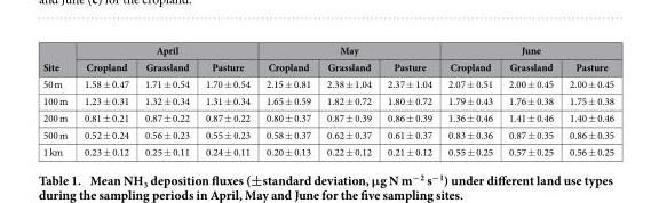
<table><thead><tr><td rowspan="2">Site</td><td colspan="3">April</td><td colspan="3">May</td><td colspan="3">June</td></tr><tr><td>Cropland</td><td>Grassland</td><td>Pasture</td><td>Cropland</td><td>Grassland</td><td>Pasture</td><td>Cropland</td><td>Grassland</td><td>Pasture</td></tr></thead><tbody><tr><td>50 m</td><td>1.58 ± 0.47</td><td>1.71 ± 0.54</td><td>1.70 ± 0.54</td><td>2.15 ± 0.81</td><td>2.38 ± 1.04</td><td>2.37 ± 1.04</td><td>2.07 ± 0.51</td><td>2.00 ± 0.45</td><td>2.00 ± 0.45</td></tr><tr><td>100 m</td><td>1.23 ± 0.31</td><td>1.32 ± 0.34</td><td>1.31 ± 0.34</td><td>1.65 ± 0.59</td><td>1.82 ± 0.72</td><td>1.80 ± 0.72</td><td>1.79 ± 0.43</td><td>1.76 ± 0.38</td><td>1.75 ± 0.38</td></tr><tr><td>200 m</td><td>0.81 ± 0.21</td><td>0.87 ± 0.22</td><td>0.87 ± 0.22</td><td>0.80 ± 0.37</td><td>0.87 ± 0.39</td><td>0.86 ± 0.39</td><td>1.36 ± 0.46</td><td>1.41 ± 0.46</td><td>1.40 ± 0.46</td></tr><tr><td>500 m</td><td>0.52 ± 0.24</td><td>0.56 ± 0.23</td><td>0.55 ± 0.23</td><td>0.58 ± 0.37</td><td>0.62 ± 0.37</td><td>0.61 ± 0.37</td><td>0.83 ± 0.36</td><td>0.87 ± 0.35</td><td>0.86 ± 0.35</td></tr><tr><td>1 km</td><td>0.23 ± 0.12</td><td>0.25 ± 0.11</td><td>0.24 ± 0.11</td><td>0.20 ± 0.13</td><td>0.22 ± 0.12</td><td>0.21 ± 0.12</td><td>0.55 ± 0.25</td><td>0.57 ± 0.25</td><td>0.56 ± 0.25</td></tr></tbody></table>